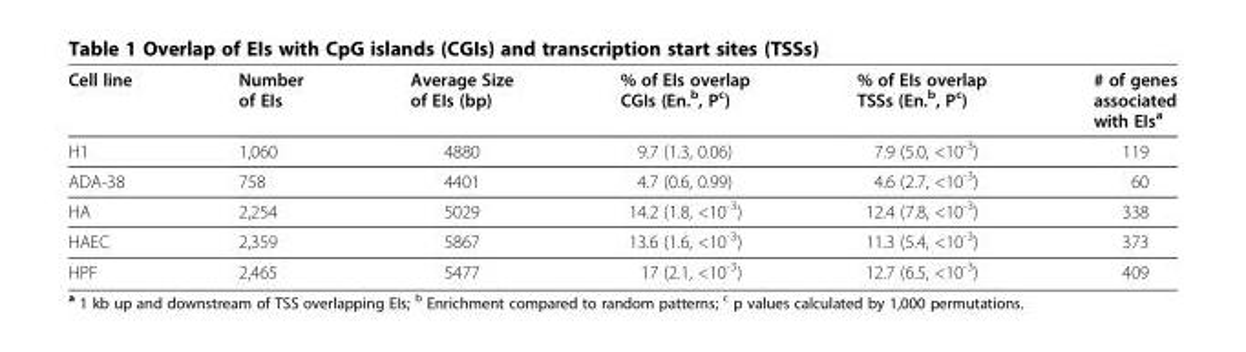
<table><thead><tr><td>Cell line</td><td>Number of EIs</td><td>Average Size of EIs (bp)</td><td>% of EIs overlap CGIs (En.<sup>b</sup>, P<sup>c</sup>)</td><td>% of EIs overlap TSSs (En.<sup>b</sup>, P<sup>c</sup>)</td><td># of genes associated with EIs<sup>a</sup></td></tr></thead><tbody><tr><td>H1</td><td>1,060</td><td>4880</td><td>9.7 (1.3, 0.06)</td><td>7.9 (5.0, &lt;10<sup>-3</sup>)</td><td>119</td></tr><tr><td>ADA-38</td><td>758</td><td>4401</td><td>4.7 (0.6, 0.99)</td><td>4.6 (2.7, &lt;10<sup>-3</sup>)</td><td>60</td></tr><tr><td>HA</td><td>2,254</td><td>5029</td><td>14.2 (1.8, &lt;10<sup>-3</sup>)</td><td>12.4 (7.8, &lt;10<sup>-3</sup>)</td><td>338</td></tr><tr><td>HAEC</td><td>2,359</td><td>5867</td><td>13.6 (1.6, &lt;10<sup>-3</sup>)</td><td>11.3 (5.4, &lt;10<sup>-3</sup>)</td><td>373</td></tr><tr><td>HPF</td><td>2,465</td><td>5477</td><td>17 (2.1, &lt;10<sup>-3</sup>)</td><td>12.7 (6.5, &lt;10<sup>-3</sup>)</td><td>409</td></tr></tbody></table>